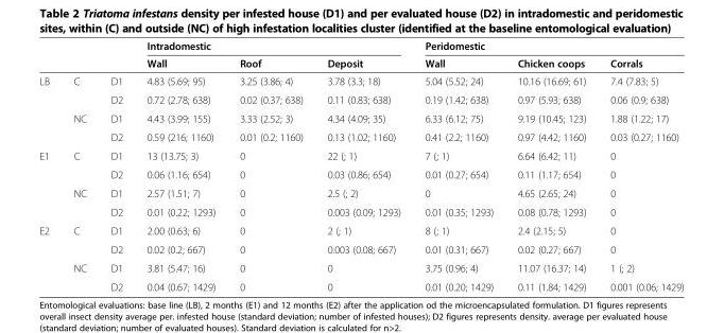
<table><thead><tr><td rowspan="2"></td><td rowspan="2"></td><td rowspan="2"></td><td colspan="3">Intradomestic</td><td colspan="3">Peridomestic</td></tr><tr><td>Wall</td><td>Roof</td><td>Deposit</td><td>Wall</td><td>Chicken coops</td><td>Corrals</td></tr></thead><tbody><tr><td rowspan="4">LB</td><td rowspan="2">C</td><td>D1</td><td>4.83 (5.69; 95)</td><td>3.25 (3.86; 4)</td><td>3.78 (3.3; 18)</td><td>5.04 (5.52; 24)</td><td>10.16 (16.69; 61)</td><td>7.4 (7.83; 5)</td></tr><tr><td>D2</td><td>0.72 (2.78; 638)</td><td>0.02 (0.37; 638)</td><td>0.11 (0.83; 638)</td><td>0.19 (1.42; 638)</td><td>0.97 (5.93; 638)</td><td>0.06 (0.9; 638)</td></tr><tr><td rowspan="2">NC</td><td>D1</td><td>4.43 (3.99; 155)</td><td>3.33 (2.52; 3)</td><td>4.34 (4.09; 35)</td><td>6.33 (6.12; 75)</td><td>9.19 (10.45; 123)</td><td>1.88 (1.22; 17)</td></tr><tr><td>D2</td><td>0.59 (216; 1160)</td><td>0.01 (0.2; 1160)</td><td>0.13 (1.02; 1160)</td><td>0.41 (2.2; 1160)</td><td>0.97 (4.42; 1160)</td><td>0.03 (0.27; 1160)</td></tr><tr><td rowspan="4">E1</td><td rowspan="2">C</td><td>D1</td><td>13 (13.75; 3)</td><td>0</td><td>22 (; 1)</td><td>7 (; 1)</td><td>6.64 (6.42; 11)</td><td>0</td></tr><tr><td>D2</td><td>0.06 (1.16; 654)</td><td>0</td><td>0.03 (0.86; 654)</td><td>0.01 (0.27; 654)</td><td>0.11 (1.17; 654)</td><td>0</td></tr><tr><td rowspan="2">NC</td><td>D1</td><td>2.57 (1.51; 7)</td><td>0</td><td>2.5 (; 2)</td><td>0</td><td>4.65 (2.65; 24)</td><td>0</td></tr><tr><td>D2</td><td>0.01 (0.22; 1293)</td><td>0</td><td>0.003 (0.09; 1293)</td><td>0.01 (0.35; 1293)</td><td>0.08 (0.78; 1293)</td><td>0</td></tr><tr><td rowspan="4">E2</td><td rowspan="2">C</td><td>D1</td><td>2.00 (0.63; 6)</td><td>0</td><td>2 (; 1)</td><td>8 (; 1)</td><td>2.4 (2.15; 5)</td><td>0</td></tr><tr><td>D2</td><td>0.02 (0.2; 667)</td><td>0</td><td>0.003 (0.08; 667)</td><td>0.01 (0.31; 667)</td><td>0.02 (0.27; 667)</td><td>0</td></tr><tr><td rowspan="2">NC</td><td>D1</td><td>3.81 (5.47; 16)</td><td>0</td><td>0</td><td>3.75 (0.96; 4)</td><td>11.07 (16.37; 14)</td><td>1 (; 2)</td></tr><tr><td>D2</td><td>0.04 (0.67; 1429)</td><td>0</td><td>0</td><td>0.01 (0.20; 1429)</td><td>0.11 (1.84; 1429)</td><td>0.001 (0.06; 1429)</td></tr></tbody></table>